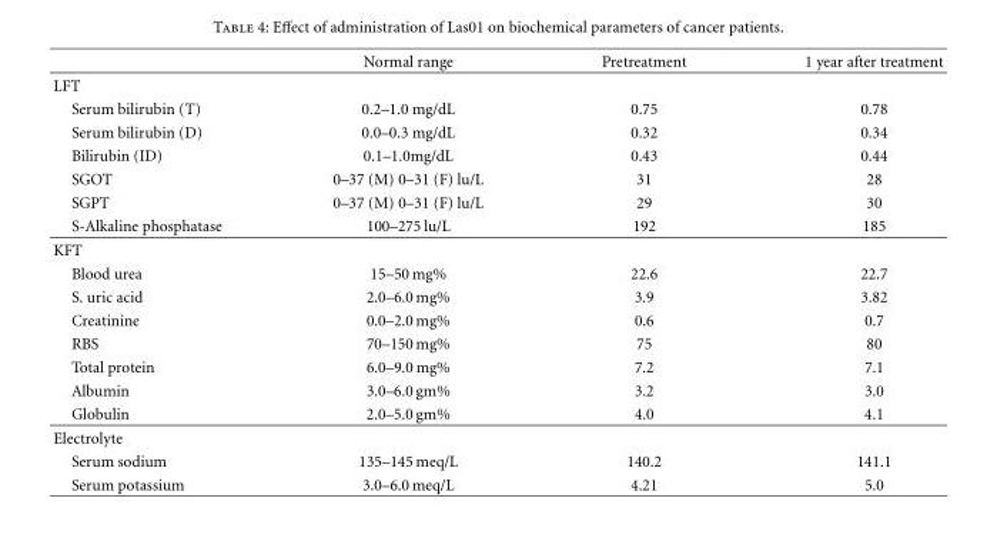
<table><thead><tr><td></td><td>Normal range</td><td>Pretreatment</td><td>1 year after treatment</td></tr></thead><tbody><tr><td colspan="4">LFT</td></tr><tr><td>Serum bilirubin (T)</td><td>0.2–1.0 mg/dL</td><td>0.75</td><td>0.78</td></tr><tr><td>Serum bilirubin (D)</td><td>0.0–0.3 mg/dL</td><td>0.32</td><td>0.34</td></tr><tr><td>Bilirubin (ID)</td><td>0.1–1.0mg/dL</td><td>0.43</td><td>0.44</td></tr><tr><td>SGOT</td><td>0–37 (M) 0–31 (F) lu/L</td><td>31</td><td>28</td></tr><tr><td>SGPT</td><td>0–37 (M) 0–31 (F) lu/L</td><td>29</td><td>30</td></tr><tr><td>S-Alkaline phosphatase</td><td>100–275 lu/L</td><td>192</td><td>185</td></tr><tr><td colspan="4">KFT</td></tr><tr><td>Blood urea</td><td>15–50 mg%</td><td>22.6</td><td>22.7</td></tr><tr><td>S. uric acid</td><td>2.0–6.0 mg%</td><td>3.9</td><td>3.82</td></tr><tr><td>Creatinine</td><td>0.0–2.0 mg%</td><td>0.6</td><td>0.7</td></tr><tr><td>RBS</td><td>70–150 mg%</td><td>75</td><td>80</td></tr><tr><td>Total protein</td><td>6.0–9.0 mg%</td><td>7.2</td><td>7.1</td></tr><tr><td>Albumin</td><td>3.0–6.0 gm%</td><td>3.2</td><td>3.0</td></tr><tr><td>Globulin</td><td>2.0–5.0 gm%</td><td>4.0</td><td>4.1</td></tr><tr><td colspan="4">Electrolyte</td></tr><tr><td>Serum sodium</td><td>135–145 meq/L</td><td>140.2</td><td>141.1</td></tr><tr><td>Serum potassium</td><td>3.0–6.0 meq/L</td><td>4.21</td><td>5.0</td></tr></tbody></table>